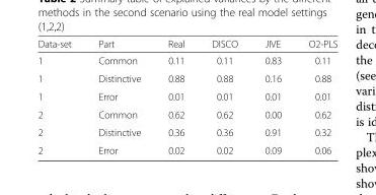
<table><thead><tr><td>Data-set</td><td>Part</td><td>Real</td><td>DISCO</td><td>JIVE</td><td>O2-PLS</td></tr></thead><tbody><tr><td>1</td><td>Common</td><td>0.11</td><td>0.11</td><td>0.83</td><td>0.11</td></tr><tr><td>1</td><td>Distinctive</td><td>0.88</td><td>0.88</td><td>0.16</td><td>0.88</td></tr><tr><td>1</td><td>Error</td><td>0.01</td><td>0.01</td><td>0.01</td><td>0.01</td></tr><tr><td>2</td><td>Common</td><td>0.62</td><td>0.62</td><td>0.00</td><td>0.62</td></tr><tr><td>2</td><td>Distinctive</td><td>0.36</td><td>0.36</td><td>0.91</td><td>0.32</td></tr><tr><td>2</td><td>Error</td><td>0.02</td><td>0.02</td><td>0.09</td><td>0.06</td></tr></tbody></table>